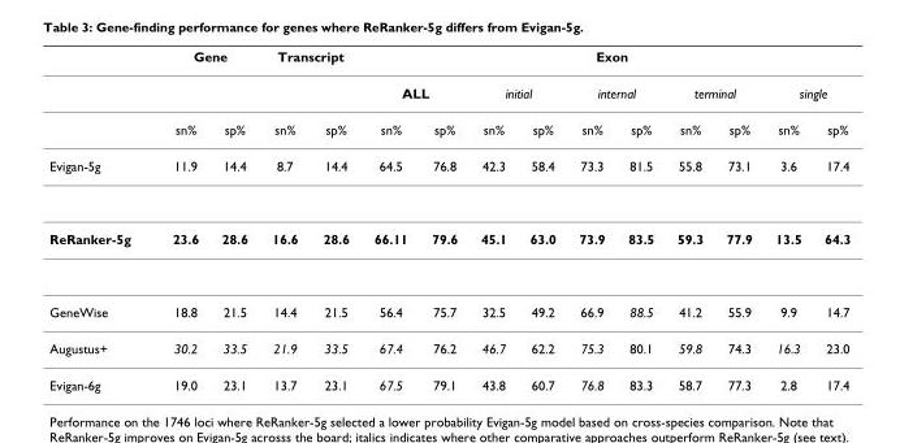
<table><thead><tr><td rowspan="3"></td><td colspan="2">Gene</td><td colspan="2">Transcript</td><td colspan="10">Exon</td></tr><tr><td rowspan="2">sn%</td><td rowspan="2">sp%</td><td rowspan="2">sn%</td><td rowspan="2">sp%</td><td colspan="2">ALL</td><td colspan="2">initial</td><td colspan="2">internal</td><td colspan="2">terminal</td><td colspan="2">single</td></tr><tr><td>sn%</td><td>sp%</td><td>sn%</td><td>sp%</td><td>sn%</td><td>sp%</td><td>sn%</td><td>sp%</td><td>sn%</td><td>sp%</td></tr></thead><tbody><tr><td>Evigan-5g</td><td>11.9</td><td>14.4</td><td>8.7</td><td>14.4</td><td>64.5</td><td>76.8</td><td>42.3</td><td>58.4</td><td>73.3</td><td>81.5</td><td>55.8</td><td>73.1</td><td>3.6</td><td>17.4</td></tr><tr><td>ReRanker-5g</td><td>23.6</td><td>28.6</td><td>16.6</td><td>28.6</td><td>66.11</td><td>79.6</td><td>45.1</td><td>63.0</td><td>73.9</td><td>83.5</td><td>59.3</td><td>77.9</td><td>13.5</td><td>64.3</td></tr><tr><td>GeneWise</td><td>18.8</td><td>21.5</td><td>14.4</td><td>21.5</td><td>56.4</td><td>75.7</td><td>32.5</td><td>49.2</td><td>66.9</td><td>88.5</td><td>41.2</td><td>55.9</td><td>9.9</td><td>14.7</td></tr><tr><td>Augustus+</td><td>30.2</td><td>33.5</td><td>21.9</td><td>33.5</td><td>67.4</td><td>76.2</td><td>46.7</td><td>62.2</td><td>75.3</td><td>80.1</td><td>59.8</td><td>74.3</td><td>16.3</td><td>23.0</td></tr><tr><td>Evigan-6g</td><td>19.0</td><td>23.1</td><td>13.7</td><td>23.1</td><td>67.5</td><td>79.1</td><td>43.8</td><td>60.7</td><td>76.8</td><td>83.3</td><td>58.7</td><td>77.3</td><td>2.8</td><td>17.4</td></tr></tbody></table>